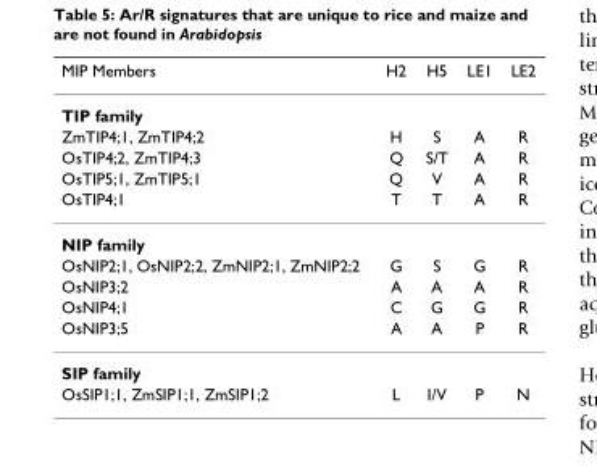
<table><thead><tr><td>MIP Members</td><td>H2</td><td>H5</td><td>LE1</td><td>LE2</td></tr></thead><tbody><tr><td colspan="5">TIP family</td></tr><tr><td>ZmTIP4;1, ZmTIP4;2</td><td>H</td><td>S</td><td>A</td><td>R</td></tr><tr><td>OsTIP4;2, ZmTIP4;3</td><td>Q</td><td>S/T</td><td>A</td><td>R</td></tr><tr><td>OsTIP5;1, ZmTIP5;1</td><td>Q</td><td>V</td><td>A</td><td>R</td></tr><tr><td>OsTIP4;1</td><td>T</td><td>T</td><td>A</td><td>R</td></tr><tr><td colspan="5">NIP family</td></tr><tr><td>OsNIP2;1, OsNIP2;2, ZmNIP2;1, ZmNIP2;2</td><td>G</td><td>S</td><td>G</td><td>R</td></tr><tr><td>OsNIP3;2</td><td>A</td><td>A</td><td>A</td><td>R</td></tr><tr><td>OsNIP4;1</td><td>C</td><td>G</td><td>G</td><td>R</td></tr><tr><td>OsNIP3;5</td><td>A</td><td>A</td><td>P</td><td>R</td></tr><tr><td colspan="5">SIP family</td></tr><tr><td>OsSIP1;1, ZmSIP1;1, ZmSIP1;2</td><td>L</td><td>I/V</td><td>P</td><td>N</td></tr></tbody></table>